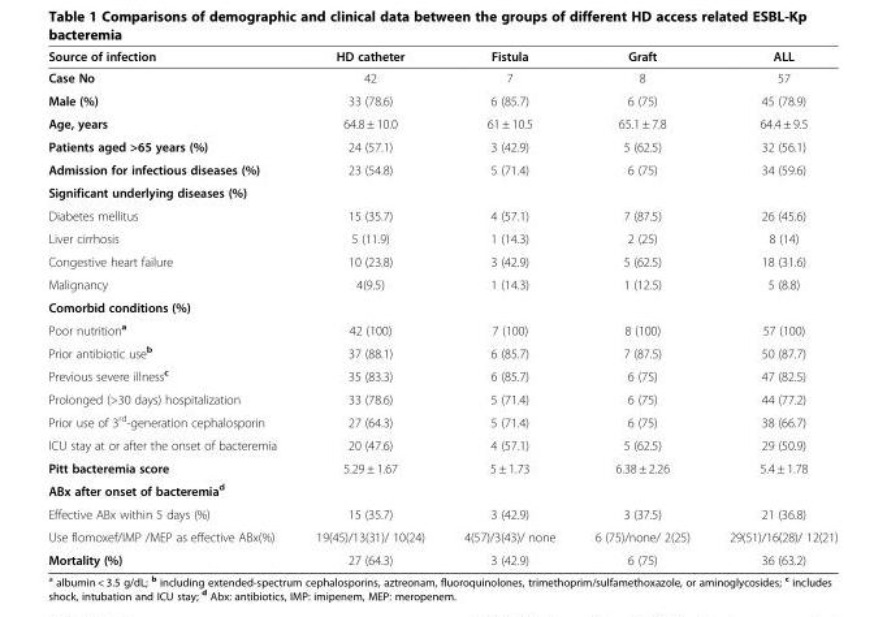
<table><thead><tr><td>Source of infection</td><td>HD catheter</td><td>Fistula</td><td>Graft</td><td>ALL</td></tr></thead><tbody><tr><td>Case No</td><td>42</td><td>7</td><td>8</td><td>57</td></tr><tr><td>Male (%)</td><td>33 (78.6)</td><td>6 (85.7)</td><td>6 (75)</td><td>45 (78.9)</td></tr><tr><td>Age, years</td><td>64.8 ± 10.0</td><td>61 ± 10.5</td><td>65.1 ± 7.8</td><td>64.4 ± 9.5</td></tr><tr><td>Patients aged &gt;65 years (%)</td><td>24 (57.1)</td><td>3 (42.9)</td><td>5 (62.5)</td><td>32 (56.1)</td></tr><tr><td>Admission for infectious diseases (%)</td><td>23 (54.8)</td><td>5 (71.4)</td><td>6 (75)</td><td>34 (59.6)</td></tr><tr><td colspan="5">Significant underlying diseases (%)</td></tr><tr><td>Diabetes mellitus</td><td>15 (35.7)</td><td>4 (57.1)</td><td>7 (87.5)</td><td>26 (45.6)</td></tr><tr><td>Liver cirrhosis</td><td>5 (11.9)</td><td>1 (14.3)</td><td>2 (25)</td><td>8 (14)</td></tr><tr><td>Congestive heart failure</td><td>10 (23.8)</td><td>3 (42.9)</td><td>5 (62.5)</td><td>18 (31.6)</td></tr><tr><td>Malignancy</td><td>4(9.5)</td><td>1 (14.3)</td><td>1 (12.5)</td><td>5 (8.8)</td></tr><tr><td colspan="5">Comorbid conditions (%)</td></tr><tr><td>Poor nutrition<sup>a</sup></td><td>42 (100)</td><td>7 (100)</td><td>8 (100)</td><td>57 (100)</td></tr><tr><td>Prior antibiotic use<sup>b</sup></td><td>37 (88.1)</td><td>6 (85.7)</td><td>7 (87.5)</td><td>50 (87.7)</td></tr><tr><td>Previous severe illness<sup>c</sup></td><td>35 (83.3)</td><td>6 (85.7)</td><td>6 (75)</td><td>47 (82.5)</td></tr><tr><td>Prolonged (&gt;30 days) hospitalization</td><td>33 (78.6)</td><td>5 (71.4)</td><td>6 (75)</td><td>44 (77.2)</td></tr><tr><td>Prior use of 3<sup>rd</sup>-generation cephalosporin</td><td>27 (64.3)</td><td>5 (71.4)</td><td>6 (75)</td><td>38 (66.7)</td></tr><tr><td>ICU stay at or after the onset of bacteremia</td><td>20 (47.6)</td><td>4 (57.1)</td><td>5 (62.5)</td><td>29 (50.9)</td></tr><tr><td>Pitt bacteremia score</td><td>5.29 ± 1.67</td><td>5 ± 1.73</td><td>6.38 ± 2.26</td><td>5.4 ± 1.78</td></tr><tr><td colspan="5">ABx after onset of bacteremia<sup>d</sup></td></tr><tr><td>Effective ABx within 5 days (%)</td><td>15 (35.7)</td><td>3 (42.9)</td><td>3 (37.5)</td><td>21 (36.8)</td></tr><tr><td>Use flomoxef/IMP /MEP as effective ABx(%)</td><td>19(45)/13(31)/ 10(24)</td><td>4(57)/3(43)/ none</td><td>6 (75)/none/ 2(25)</td><td>29(51)/16(28)/ 12(21)</td></tr><tr><td>Mortality (%)</td><td>27 (64.3)</td><td>3 (42.9)</td><td>6 (75)</td><td>36 (63.2)</td></tr></tbody></table>